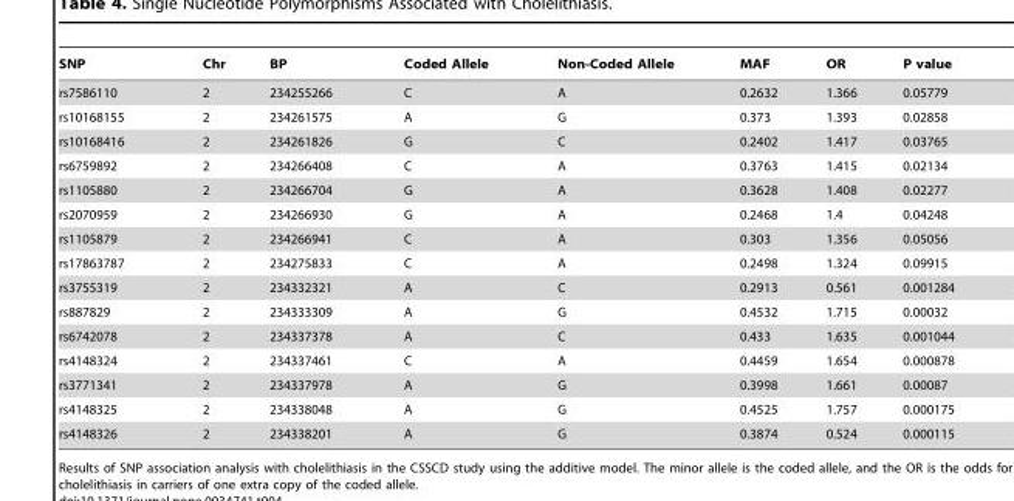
<table><thead><tr><td>SNP</td><td>Chr</td><td>BP</td><td>Coded Allele</td><td>Non-Coded Allele</td><td>MAF</td><td>OR</td><td>P value</td></tr></thead><tbody><tr><td>rs7586110</td><td>2</td><td>234255266</td><td>C</td><td>A</td><td>0.2632</td><td>1.366</td><td>0.05779</td></tr><tr><td>rs10168155</td><td>2</td><td>234261575</td><td>A</td><td>G</td><td>0.373</td><td>1.393</td><td>0.02858</td></tr><tr><td>rs10168416</td><td>2</td><td>234261826</td><td>G</td><td>C</td><td>0.2402</td><td>1.417</td><td>0.03765</td></tr><tr><td>rs6759892</td><td>2</td><td>234266408</td><td>C</td><td>A</td><td>0.3763</td><td>1.415</td><td>0.02134</td></tr><tr><td>rs1105880</td><td>2</td><td>234266704</td><td>G</td><td>A</td><td>0.3628</td><td>1.408</td><td>0.02277</td></tr><tr><td>rs2070959</td><td>2</td><td>234266930</td><td>G</td><td>A</td><td>0.2468</td><td>1.4</td><td>0.04248</td></tr><tr><td>rs1105879</td><td>2</td><td>234266941</td><td>C</td><td>A</td><td>0.303</td><td>1.356</td><td>0.05056</td></tr><tr><td>rs17863787</td><td>2</td><td>234275833</td><td>C</td><td>A</td><td>0.2498</td><td>1.324</td><td>0.09915</td></tr><tr><td>rs3755319</td><td>2</td><td>234332321</td><td>A</td><td>C</td><td>0.2913</td><td>0.561</td><td>0.001284</td></tr><tr><td>rs887829</td><td>2</td><td>234333309</td><td>A</td><td>G</td><td>0.4532</td><td>1.715</td><td>0.00032</td></tr><tr><td>rs6742078</td><td>2</td><td>234337378</td><td>A</td><td>C</td><td>0.433</td><td>1.635</td><td>0.001044</td></tr><tr><td>rs4148324</td><td>2</td><td>234337461</td><td>C</td><td>A</td><td>0.4459</td><td>1.654</td><td>0.000878</td></tr><tr><td>rs3771341</td><td>2</td><td>234337978</td><td>A</td><td>G</td><td>0.3998</td><td>1.661</td><td>0.00087</td></tr><tr><td>rs4148325</td><td>2</td><td>234338048</td><td>A</td><td>G</td><td>0.4525</td><td>1.757</td><td>0.000175</td></tr><tr><td>rs4148326</td><td>2</td><td>234338201</td><td>A</td><td>G</td><td>0.3874</td><td>0.524</td><td>0.000115</td></tr></tbody></table>